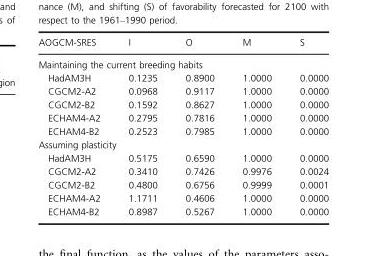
<table><thead><tr><td>AOGCM-SRES</td><td>I</td><td>O</td><td>M</td><td>S</td></tr></thead><tbody><tr><td colspan="5">Maintaining the current breeding habits</td></tr><tr><td>HadAM3H</td><td>0.1235</td><td>0.8900</td><td>1.0000</td><td>0.0000</td></tr><tr><td>CGCM2-A2</td><td>0.0968</td><td>0.9117</td><td>1.0000</td><td>0.0000</td></tr><tr><td>CGCM2-B2</td><td>0.1592</td><td>0.8627</td><td>1.0000</td><td>0.0000</td></tr><tr><td>ECHAM4-A2</td><td>0.2795</td><td>0.7816</td><td>1.0000</td><td>0.0000</td></tr><tr><td>ECHAM4-B2</td><td>0.2523</td><td>0.7985</td><td>1.0000</td><td>0.0000</td></tr><tr><td colspan="5">Assuming plasticity</td></tr><tr><td>HadAM3H</td><td>0.5175</td><td>0.6590</td><td>1.0000</td><td>0.0000</td></tr><tr><td>CGCM2-A2</td><td>0.3410</td><td>0.7426</td><td>0.9976</td><td>0.0024</td></tr><tr><td>CGCM2-B2</td><td>0.4800</td><td>0.6756</td><td>0.9999</td><td>0.0001</td></tr><tr><td>ECHAM4-A2</td><td>1.1711</td><td>0.4606</td><td>1.0000</td><td>0.0000</td></tr><tr><td>ECHAM4-B2</td><td>0.8987</td><td>0.5267</td><td>1.0000</td><td>0.0000</td></tr></tbody></table>